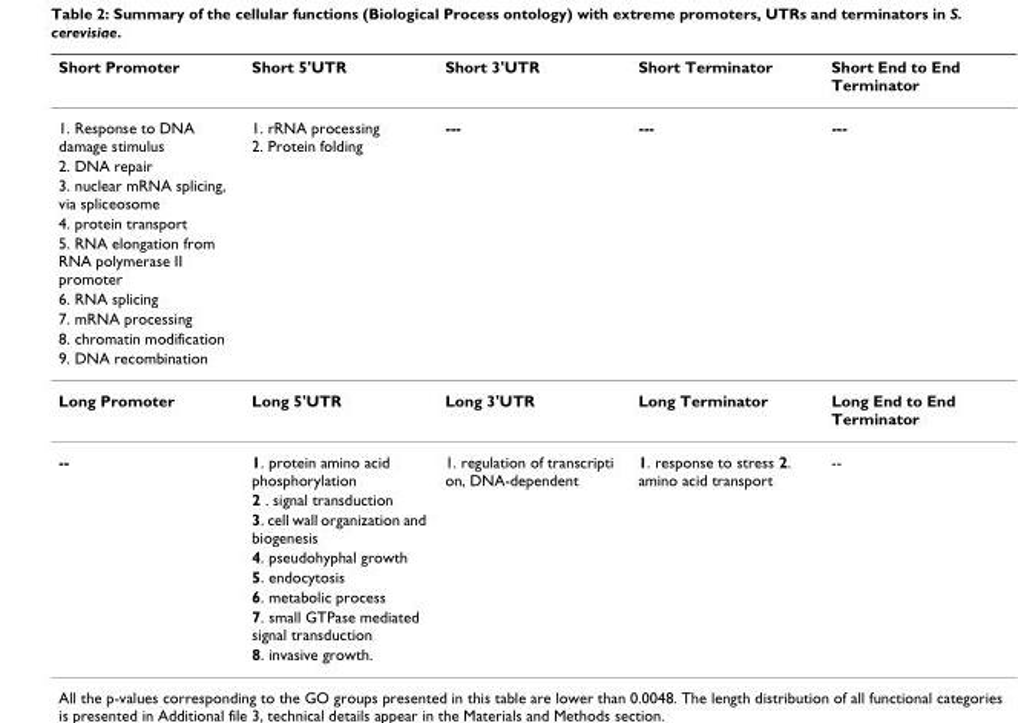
<table><thead><tr><td>Short Promoter</td><td>Short 5&#x27;UTR</td><td>Short 3&#x27;UTR</td><td>Short Terminator</td><td>Short End to End Terminator</td></tr></thead><tbody><tr><td>1. Response to DNA damage stimulus</td><td>1. rRNA processing 2. Protein folding</td><td>---</td><td>---</td><td>---</td></tr><tr><td colspan="5">2. DNA repair</td></tr><tr><td colspan="5">3. nuclear mRNA splicing, via spliceosome</td></tr><tr><td colspan="5">4. protein transport</td></tr><tr><td colspan="5">5. RNA elongation from RNA polymerase II promoter</td></tr><tr><td colspan="5">6. RNA splicing</td></tr><tr><td colspan="5">7. mRNA processing</td></tr><tr><td colspan="5">8. chromatin modification</td></tr><tr><td colspan="5">9. DNA recombination</td></tr><tr><td>Long Promoter</td><td>Long 5&#x27;UTR</td><td>Long 3&#x27;UTR</td><td>Long Terminator</td><td>Long End to End Terminator</td></tr><tr><td rowspan="8">--</td><td>1. protein amino acid phosphorylation</td><td>1. regulation of transcripti on, DNA-dependent</td><td>1. response to stress 2. amino acid transport</td><td>--</td></tr><tr><td>2 . signal transduction</td><td></td><td></td><td></td></tr><tr><td>3. cell wall organization and biogenesis</td><td></td><td></td><td></td></tr><tr><td>4. pseudohyphal growth</td><td></td><td></td><td></td></tr><tr><td>5. endocytosis</td><td></td><td></td><td></td></tr><tr><td>6. metabolic process</td><td></td><td></td><td></td></tr><tr><td>7. small GTPase mediated signal transduction</td><td></td><td></td><td></td></tr><tr><td>8. invasive growth.</td><td></td><td></td><td></td></tr></tbody></table>